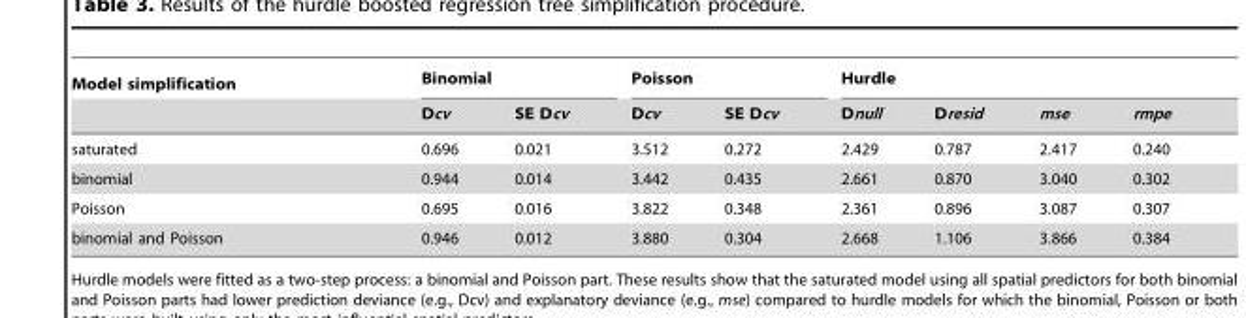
<table><thead><tr><td rowspan="2">Model simplification</td><td colspan="2">Binomial</td><td colspan="2">Poisson</td><td colspan="4">Hurdle</td></tr><tr><td>Dcv</td><td>SE Dcv</td><td>Dcv</td><td>SE Dcv</td><td>Dnull</td><td>Dresid</td><td>mse</td><td>rmpe</td></tr></thead><tbody><tr><td>saturated</td><td>0.696</td><td>0.021</td><td>3.512</td><td>0.272</td><td>2.429</td><td>0.787</td><td>2.417</td><td>0.240</td></tr><tr><td>binomial</td><td>0.944</td><td>0.014</td><td>3.442</td><td>0.435</td><td>2.661</td><td>0.870</td><td>3.040</td><td>0.302</td></tr><tr><td>Poisson</td><td>0.695</td><td>0.016</td><td>3.822</td><td>0.348</td><td>2.361</td><td>0.896</td><td>3.087</td><td>0.307</td></tr><tr><td>binomial and Poisson</td><td>0.946</td><td>0.012</td><td>3.880</td><td>0.304</td><td>2.668</td><td>1.106</td><td>3.866</td><td>0.384</td></tr></tbody></table>